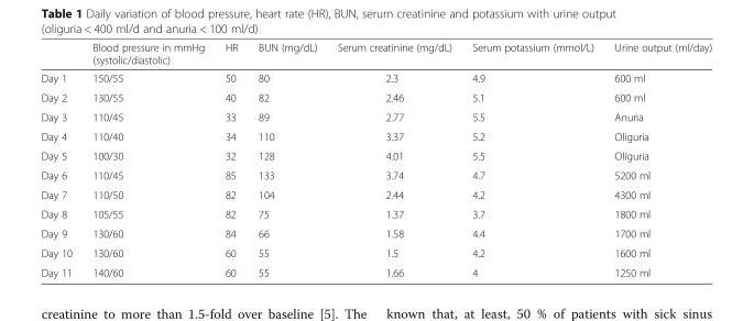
<table><thead><tr><td></td><td>Blood pressure in mmHg (systolic/diastolic)</td><td>HR</td><td>BUN (mg/dL)</td><td>Serum creatinine (mg/dL)</td><td>Serum potassium (mmol/L)</td><td>Urine output (ml/day)</td></tr></thead><tbody><tr><td>Day 1</td><td>150/55</td><td>50</td><td>80</td><td>2.3</td><td>4.9</td><td>600 ml</td></tr><tr><td>Day 2</td><td>130/55</td><td>40</td><td>82</td><td>2.46</td><td>5.1</td><td>600 ml</td></tr><tr><td>Day 3</td><td>110/45</td><td>33</td><td>89</td><td>2.77</td><td>5.5</td><td>Anuria</td></tr><tr><td>Day 4</td><td>110/40</td><td>34</td><td>110</td><td>3.37</td><td>5.2</td><td>Oliguria</td></tr><tr><td>Day 5</td><td>100/30</td><td>32</td><td>128</td><td>4.01</td><td>5.5</td><td>Oliguria</td></tr><tr><td>Day 6</td><td>110/45</td><td>85</td><td>133</td><td>3.74</td><td>4.7</td><td>5200 ml</td></tr><tr><td>Day 7</td><td>110/50</td><td>82</td><td>104</td><td>2.44</td><td>4.2</td><td>4300 ml</td></tr><tr><td>Day 8</td><td>105/55</td><td>82</td><td>75</td><td>1.37</td><td>3.7</td><td>1800 ml</td></tr><tr><td>Day 9</td><td>130/60</td><td>84</td><td>66</td><td>1.58</td><td>4.4</td><td>1700 ml</td></tr><tr><td>Day 10</td><td>130/60</td><td>60</td><td>55</td><td>1.5</td><td>4.2</td><td>1600 ml</td></tr><tr><td>Day 11</td><td>140/60</td><td>60</td><td>55</td><td>1.66</td><td>4</td><td>1250 ml</td></tr></tbody></table>